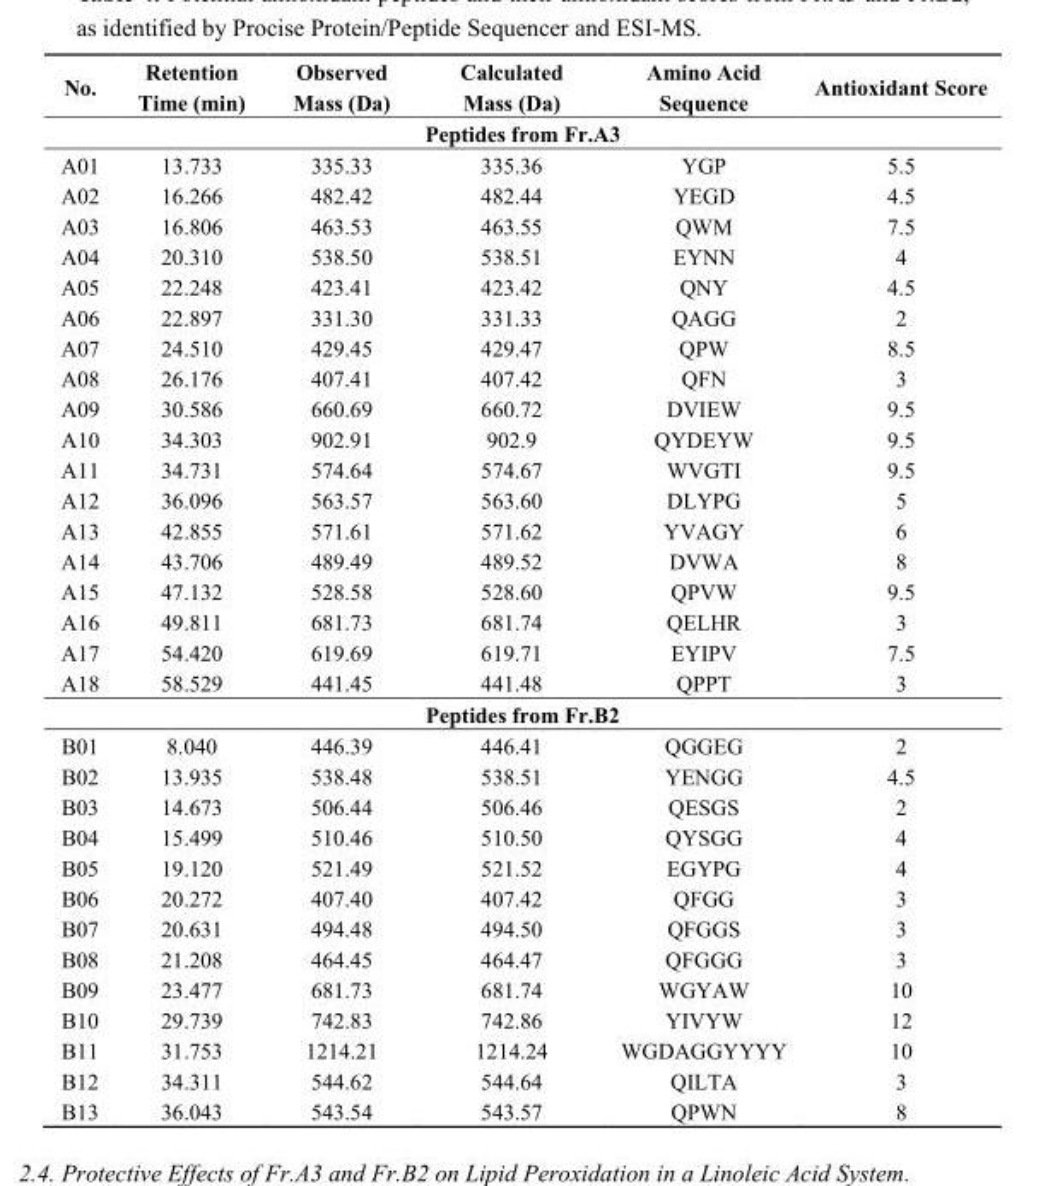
<table><thead><tr><td>No.</td><td>Retention Time (min)</td><td>Observed Mass (Da)</td><td>Calculated Mass (Da)</td><td>Amino Acid Sequence</td><td>Antioxidant Score</td></tr></thead><tbody><tr><td colspan="6">Peptides from Fr.A3</td></tr><tr><td>A01</td><td>13.733</td><td>335.33</td><td>335.36</td><td>YGP</td><td>5.5</td></tr><tr><td>A02</td><td>16.266</td><td>482.42</td><td>482.44</td><td>YEGD</td><td>4.5</td></tr><tr><td>A03</td><td>16.806</td><td>463.53</td><td>463.55</td><td>QWM</td><td>7.5</td></tr><tr><td>A04</td><td>20.310</td><td>538.50</td><td>538.51</td><td>EYNN</td><td>4</td></tr><tr><td>A05</td><td>22.248</td><td>423.41</td><td>423.42</td><td>QNY</td><td>4.5</td></tr><tr><td>A06</td><td>22.897</td><td>331.30</td><td>331.33</td><td>QAGG</td><td>2</td></tr><tr><td>A07</td><td>24.510</td><td>429.45</td><td>429.47</td><td>QPW</td><td>8.5</td></tr><tr><td>A08</td><td>26.176</td><td>407.41</td><td>407.42</td><td>QFN</td><td>3</td></tr><tr><td>A09</td><td>30.586</td><td>660.69</td><td>660.72</td><td>DVIEW</td><td>9.5</td></tr><tr><td>A10</td><td>34.303</td><td>902.91</td><td>902.9</td><td>QYDEYW</td><td>9.5</td></tr><tr><td>A11</td><td>34.731</td><td>574.64</td><td>574.67</td><td>WVGTI</td><td>9.5</td></tr><tr><td>A12</td><td>36.096</td><td>563.57</td><td>563.60</td><td>DLYPG</td><td>5</td></tr><tr><td>A13</td><td>42.855</td><td>571.61</td><td>571.62</td><td>YVAGY</td><td>6</td></tr><tr><td>A14</td><td>43.706</td><td>489.49</td><td>489.52</td><td>DVWA</td><td>8</td></tr><tr><td>A15</td><td>47.132</td><td>528.58</td><td>528.60</td><td>QPVW</td><td>9.5</td></tr><tr><td>A16</td><td>49.811</td><td>681.73</td><td>681.74</td><td>QELHR</td><td>3</td></tr><tr><td>A17</td><td>54.420</td><td>619.69</td><td>619.71</td><td>EYIPV</td><td>7.5</td></tr><tr><td>A18</td><td>58.529</td><td>441.45</td><td>441.48</td><td>QPPT</td><td>3</td></tr><tr><td colspan="6">Peptides from Fr.B2</td></tr><tr><td>B01</td><td>8.040</td><td>446.39</td><td>446.41</td><td>QGGEG</td><td>2</td></tr><tr><td>B02</td><td>13.935</td><td>538.48</td><td>538.51</td><td>YENGG</td><td>4.5</td></tr><tr><td>B03</td><td>14.673</td><td>506.44</td><td>506.46</td><td>QESGS</td><td>2</td></tr><tr><td>B04</td><td>15.499</td><td>510.46</td><td>510.50</td><td>QYSGG</td><td>4</td></tr><tr><td>B05</td><td>19.120</td><td>521.49</td><td>521.52</td><td>EGYPG</td><td>4</td></tr><tr><td>B06</td><td>20.272</td><td>407.40</td><td>407.42</td><td>QFGG</td><td>3</td></tr><tr><td>B07</td><td>20.631</td><td>494.48</td><td>494.50</td><td>QFGGS</td><td>3</td></tr><tr><td>B08</td><td>21.208</td><td>464.45</td><td>464.47</td><td>QFGGG</td><td>3</td></tr><tr><td>B09</td><td>23.477</td><td>681.73</td><td>681.74</td><td>WGYAW</td><td>10</td></tr><tr><td>B10</td><td>29.739</td><td>742.83</td><td>742.86</td><td>YIVYW</td><td>12</td></tr><tr><td>B11</td><td>31.753</td><td>1214.21</td><td>1214.24</td><td>WGDAGGYYYY</td><td>10</td></tr><tr><td>B12</td><td>34.311</td><td>544.62</td><td>544.64</td><td>QILTA</td><td>3</td></tr><tr><td>B13</td><td>36.043</td><td>543.54</td><td>543.57</td><td>QPWN</td><td>8</td></tr></tbody></table>